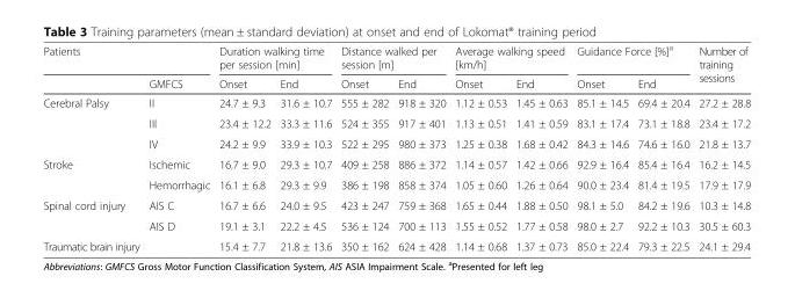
<table><thead><tr><td colspan="2">Patients</td><td colspan="2">Duration walking time per session [min]</td><td colspan="2">Distance walked per session [m]</td><td colspan="2">Average walking speed [km/h]</td><td colspan="2">Guidance Force [%]<sup>a</sup></td><td rowspan="2">Number of training sessions</td></tr><tr><td></td><td>GMFCS</td><td>Onset</td><td>End</td><td>Onset</td><td>End</td><td>Onset</td><td>End</td><td>Onset</td><td>End</td></tr></thead><tbody><tr><td rowspan="3">Cerebral Palsy</td><td>II</td><td>24.7 ± 9.3</td><td>31.6 ± 10.7</td><td>555 ± 282</td><td>918 ± 320</td><td>1.12 ± 0.53</td><td>1.45 ± 0.63</td><td>85.1 ± 14.5</td><td>69.4 ± 20.4</td><td>27.2 ± 28.8</td></tr><tr><td>III</td><td>23.4 ± 12.2</td><td>33.3 ± 11.6</td><td>524 ± 355</td><td>917 ± 401</td><td>1.13 ± 0.51</td><td>1.41 ± 0.59</td><td>83.1 ± 17.4</td><td>73.1 ± 18.8</td><td>23.4 ± 17.2</td></tr><tr><td>IV</td><td>24.2 ± 9.9</td><td>33.9 ± 10.3</td><td>522 ± 295</td><td>980 ± 373</td><td>1.25 ± 0.38</td><td>1.68 ± 0.42</td><td>84.3 ± 14.6</td><td>74.6 ± 16.0</td><td>21.8 ± 13.7</td></tr><tr><td rowspan="2">Stroke</td><td>Ischemic</td><td>16.7 ± 9.0</td><td>29.3 ± 10.7</td><td>409 ± 258</td><td>886 ± 372</td><td>1.14 ± 0.57</td><td>1.42 ± 0.66</td><td>92.9 ± 16.4</td><td>85.4 ± 16.4</td><td>16.2 ± 14.5</td></tr><tr><td>Hemorrhagic</td><td>16.1 ± 6.8</td><td>29.3 ± 9.9</td><td>386 ± 198</td><td>858 ± 374</td><td>1.05 ± 0.60</td><td>1.26 ± 0.64</td><td>90.0 ± 23.4</td><td>81.4 ± 19.5</td><td>17.9 ± 17.9</td></tr><tr><td rowspan="2">Spinal cord injury</td><td>AIS C</td><td>16.7 ± 6.6</td><td>24.0 ± 9.5</td><td>423 ± 247</td><td>759 ± 368</td><td>1.65 ± 0.44</td><td>1.88 ± 0.50</td><td>98.1 ± 5.0</td><td>84.2 ± 19.6</td><td>10.3 ± 14.8</td></tr><tr><td>AIS D</td><td>19.1 ± 3.1</td><td>22.2 ± 4.5</td><td>536 ± 124</td><td>700 ± 113</td><td>1.55 ± 0.52</td><td>1.77 ± 0.58</td><td>98.0 ± 2.7</td><td>92.2 ± 10.3</td><td>30.5 ± 60.3</td></tr><tr><td>Traumatic brain injury</td><td></td><td>15.4 ± 7.7</td><td>21.8 ± 13.6</td><td>350 ± 162</td><td>624 ± 428</td><td>1.14 ± 0.68</td><td>1.37 ± 0.73</td><td>85.0 ± 22.4</td><td>79.3 ± 22.5</td><td>24.1 ± 29.4</td></tr></tbody></table>